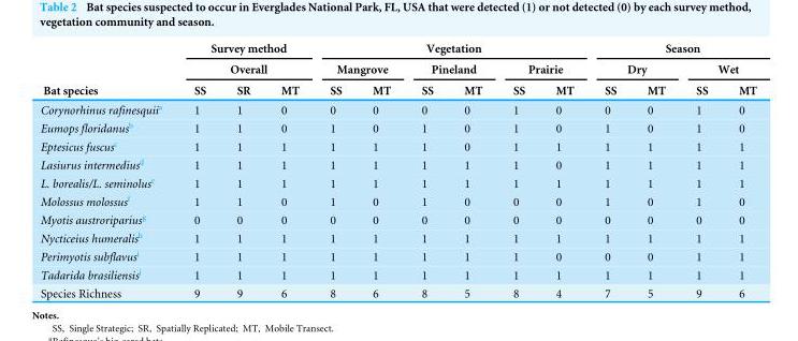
<table><thead><tr><td rowspan="3">Bat species</td><td rowspan="2" colspan="3">Survey method Overall</td><td colspan="6">Vegetation</td><td colspan="4">Season</td></tr><tr><td colspan="2">Mangrove</td><td colspan="2">Pineland</td><td colspan="2">Prairie</td><td colspan="2">Dry</td><td colspan="2">Wet</td></tr><tr><td>SS</td><td>SR</td><td>MT</td><td>SS</td><td>MT</td><td>SS</td><td>MT</td><td>SS</td><td>MT</td><td>SS</td><td>MT</td><td>SS</td><td>MT</td></tr></thead><tbody><tr><td>Corynorhinus rafinesquii<sup>a</sup></td><td>1</td><td>1</td><td>0</td><td>0</td><td>0</td><td>0</td><td>0</td><td>1</td><td>0</td><td>0</td><td>0</td><td>1</td><td>0</td></tr><tr><td>Eumops floridanus<sup>b</sup></td><td>1</td><td>1</td><td>0</td><td>1</td><td>0</td><td>1</td><td>0</td><td>1</td><td>0</td><td>1</td><td>0</td><td>1</td><td>0</td></tr><tr><td>Eptesicus fuscus<sup>c</sup></td><td>1</td><td>1</td><td>1</td><td>1</td><td>1</td><td>1</td><td>0</td><td>1</td><td>1</td><td>1</td><td>1</td><td>1</td><td>1</td></tr><tr><td>Lasiurus intermedius<sup>d</sup></td><td>1</td><td>1</td><td>1</td><td>1</td><td>1</td><td>1</td><td>1</td><td>1</td><td>0</td><td>1</td><td>1</td><td>1</td><td>1</td></tr><tr><td>L. borealis/L. seminolus<sup>e</sup></td><td>1</td><td>1</td><td>1</td><td>1</td><td>1</td><td>1</td><td>1</td><td>1</td><td>1</td><td>1</td><td>1</td><td>1</td><td>1</td></tr><tr><td>Molossus molossus<sup>f</sup></td><td>1</td><td>1</td><td>0</td><td>1</td><td>0</td><td>1</td><td>0</td><td>0</td><td>0</td><td>1</td><td>0</td><td>1</td><td>0</td></tr><tr><td>Myotis austroriparius<sup>g</sup></td><td>0</td><td>0</td><td>0</td><td>0</td><td>0</td><td>0</td><td>0</td><td>0</td><td>0</td><td>0</td><td>0</td><td>0</td><td>0</td></tr><tr><td>Nycticeius humeralis<sup>h</sup></td><td>1</td><td>1</td><td>1</td><td>1</td><td>1</td><td>1</td><td>1</td><td>1</td><td>1</td><td>1</td><td>1</td><td>1</td><td>1</td></tr><tr><td>Perimyotis subflavus<sup>i</sup></td><td>1</td><td>1</td><td>1</td><td>1</td><td>1</td><td>1</td><td>1</td><td>1</td><td>0</td><td>0</td><td>0</td><td>1</td><td>1</td></tr><tr><td>Tadarida brasiliensis<sup>j</sup></td><td>1</td><td>1</td><td>1</td><td>1</td><td>1</td><td>1</td><td>1</td><td>1</td><td>1</td><td>1</td><td>1</td><td>1</td><td>1</td></tr><tr><td>Species Richness</td><td>9</td><td>9</td><td>6</td><td>8</td><td>6</td><td>8</td><td>5</td><td>8</td><td>4</td><td>7</td><td>5</td><td>9</td><td>6</td></tr></tbody></table>